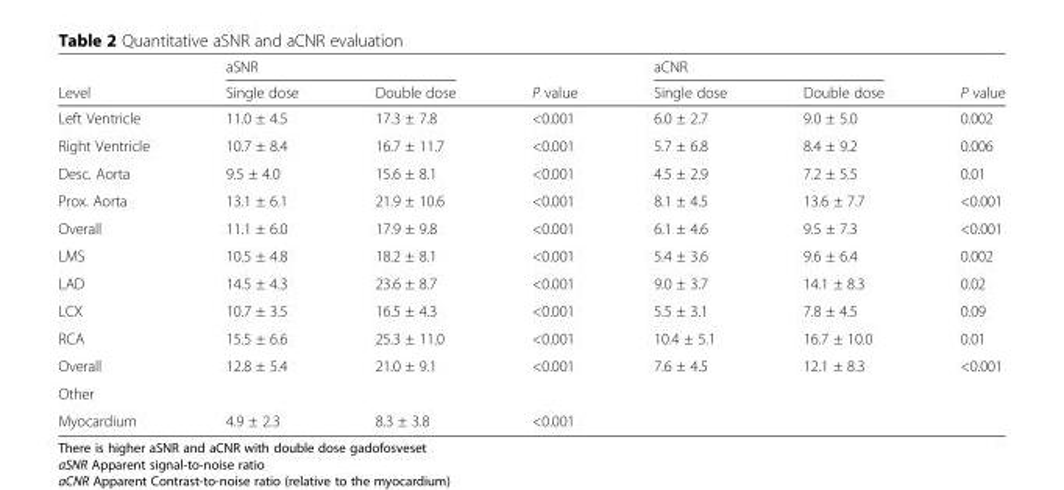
<table><thead><tr><td rowspan="2">Level</td><td colspan="2">aSNR</td><td rowspan="2">P value</td><td colspan="2">aCNR</td><td rowspan="2">P value</td></tr><tr><td>Single dose</td><td>Double dose</td><td>Single dose</td><td>Double dose</td></tr></thead><tbody><tr><td>Left Ventricle</td><td>11.0 ± 4.5</td><td>17.3 ± 7.8</td><td>&lt;0.001</td><td>6.0 ± 2.7</td><td>9.0 ± 5.0</td><td>0.002</td></tr><tr><td>Right Ventricle</td><td>10.7 ± 8.4</td><td>16.7 ± 11.7</td><td>&lt;0.001</td><td>5.7 ± 6.8</td><td>8.4 ± 9.2</td><td>0.006</td></tr><tr><td>Desc. Aorta</td><td>9.5 ± 4.0</td><td>15.6 ± 8.1</td><td>&lt;0.001</td><td>4.5 ± 2.9</td><td>7.2 ± 5.5</td><td>0.01</td></tr><tr><td>Prox. Aorta</td><td>13.1 ± 6.1</td><td>21.9 ± 10.6</td><td>&lt;0.001</td><td>8.1 ± 4.5</td><td>13.6 ± 7.7</td><td>&lt;0.001</td></tr><tr><td>Overall</td><td>11.1 ± 6.0</td><td>17.9 ± 9.8</td><td>&lt;0.001</td><td>6.1 ± 4.6</td><td>9.5 ± 7.3</td><td>&lt;0.001</td></tr><tr><td>LMS</td><td>10.5 ± 4.8</td><td>18.2 ± 8.1</td><td>&lt;0.001</td><td>5.4 ± 3.6</td><td>9.6 ± 6.4</td><td>0.002</td></tr><tr><td>LAD</td><td>14.5 ± 4.3</td><td>23.6 ± 8.7</td><td>&lt;0.001</td><td>9.0 ± 3.7</td><td>14.1 ± 8.3</td><td>0.02</td></tr><tr><td>LCX</td><td>10.7 ± 3.5</td><td>16.5 ± 4.3</td><td>&lt;0.001</td><td>5.5 ± 3.1</td><td>7.8 ± 4.5</td><td>0.09</td></tr><tr><td>RCA</td><td>15.5 ± 6.6</td><td>25.3 ± 11.0</td><td>&lt;0.001</td><td>10.4 ± 5.1</td><td>16.7 ± 10.0</td><td>0.01</td></tr><tr><td>Overall</td><td>12.8 ± 5.4</td><td>21.0 ± 9.1</td><td>&lt;0.001</td><td>7.6 ± 4.5</td><td>12.1 ± 8.3</td><td>&lt;0.001</td></tr><tr><td colspan="7">Other</td></tr><tr><td>Myocardium</td><td>4.9 ± 2.3</td><td>8.3 ± 3.8</td><td>&lt;0.001</td><td></td><td></td><td></td></tr></tbody></table>